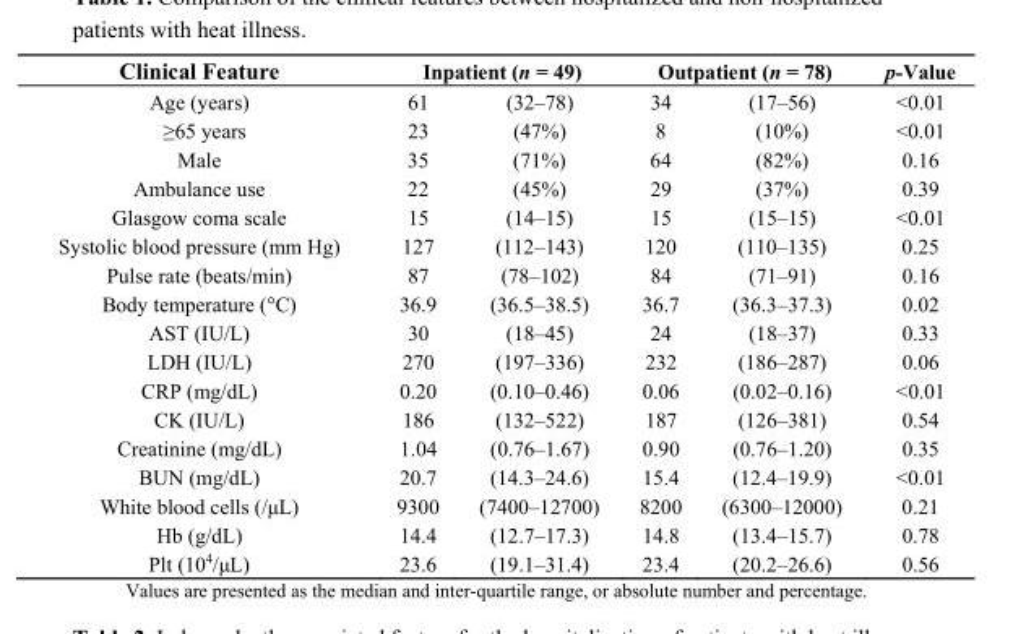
<table><thead><tr><td rowspan="2">Clinical Feature Age (years)</td><td colspan="2">Inpatient (n = 49)</td><td colspan="2">Outpatient (n = 78)</td><td rowspan="2">p-Value &lt;0.01</td></tr><tr><td>61</td><td>(32–78)</td><td>34</td><td>(17–56)</td></tr></thead><tbody><tr><td>≥65 years</td><td>23</td><td>(47%)</td><td>8</td><td>(10%)</td><td>&lt;0.01</td></tr><tr><td>Male</td><td>35</td><td>(71%)</td><td>64</td><td>(82%)</td><td>0.16</td></tr><tr><td>Ambulance use</td><td>22</td><td>(45%)</td><td>29</td><td>(37%)</td><td>0.39</td></tr><tr><td>Glasgow coma scale</td><td>15</td><td>(14–15)</td><td>15</td><td>(15–15)</td><td>&lt;0.01</td></tr><tr><td>Systolic blood pressure (mm Hg)</td><td>127</td><td>(112–143)</td><td>120</td><td>(110–135)</td><td>0.25</td></tr><tr><td>Pulse rate (beats/min)</td><td>87</td><td>(78–102)</td><td>84</td><td>(71–91)</td><td>0.16</td></tr><tr><td>Body temperature (°C)</td><td>36.9</td><td>(36.5–38.5)</td><td>36.7</td><td>(36.3–37.3)</td><td>0.02</td></tr><tr><td>AST (IU/L)</td><td>30</td><td>(18–45)</td><td>24</td><td>(18–37)</td><td>0.33</td></tr><tr><td>LDH (IU/L)</td><td>270</td><td>(197–336)</td><td>232</td><td>(186–287)</td><td>0.06</td></tr><tr><td>CRP (mg/dL)</td><td>0.20</td><td>(0.10–0.46)</td><td>0.06</td><td>(0.02–0.16)</td><td>&lt;0.01</td></tr><tr><td>CK (IU/L)</td><td>186</td><td>(132–522)</td><td>187</td><td>(126–381)</td><td>0.54</td></tr><tr><td>Creatinine (mg/dL)</td><td>1.04</td><td>(0.76–1.67)</td><td>0.90</td><td>(0.76–1.20)</td><td>0.35</td></tr><tr><td>BUN (mg/dL)</td><td>20.7</td><td>(14.3–24.6)</td><td>15.4</td><td>(12.4–19.9)</td><td>&lt;0.01</td></tr><tr><td>White blood cells (/μL)</td><td>9300</td><td>(7400–12700)</td><td>8200</td><td>(6300–12000)</td><td>0.21</td></tr><tr><td>Hb (g/dL)</td><td>14.4</td><td>(12.7–17.3)</td><td>14.8</td><td>(13.4–15.7)</td><td>0.78</td></tr><tr><td>Plt (10<sup>4</sup>/μL)</td><td>23.6</td><td>(19.1–31.4)</td><td>23.4</td><td>(20.2–26.6)</td><td>0.56</td></tr></tbody></table>